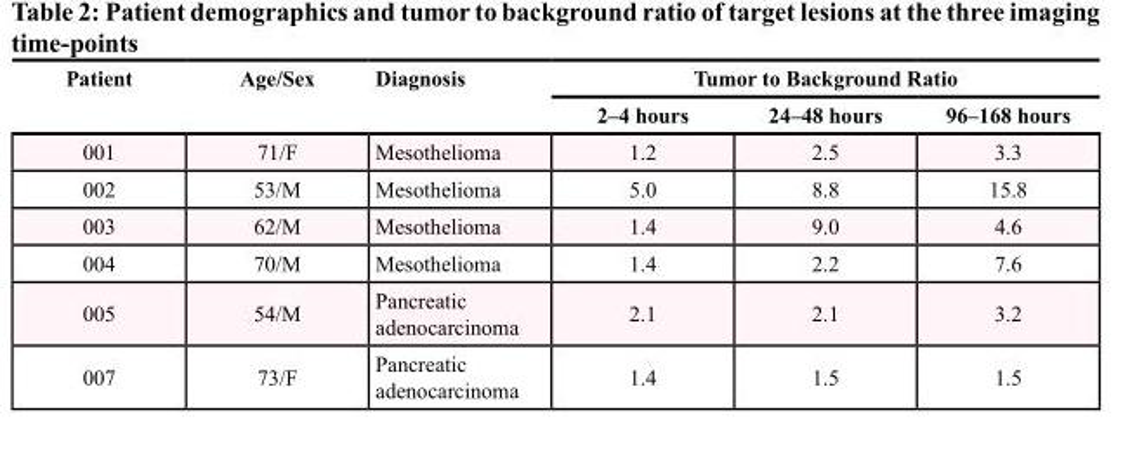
<table><thead><tr><td rowspan="2">Patient</td><td rowspan="2">Age/Sex</td><td rowspan="2">Diagnosis</td><td colspan="3">Tumor to Background Ratio</td></tr><tr><td>2–4 hours</td><td>24–48 hours</td><td>96–168 hours</td></tr></thead><tbody><tr><td>001</td><td>71/F</td><td>Mesothelioma</td><td>1.2</td><td>2.5</td><td>3.3</td></tr><tr><td>002</td><td>53/M</td><td>Mesothelioma</td><td>5.0</td><td>8.8</td><td>15.8</td></tr><tr><td>003</td><td>62/M</td><td>Mesothelioma</td><td>1.4</td><td>9.0</td><td>4.6</td></tr><tr><td>004</td><td>70/M</td><td>Mesothelioma</td><td>1.4</td><td>2.2</td><td>7.6</td></tr><tr><td>005</td><td>54/M</td><td>Pancreatic adenocarcinoma</td><td>2.1</td><td>2.1</td><td>3.2</td></tr><tr><td>007</td><td>73/F</td><td>Pancreatic adenocarcinoma</td><td>1.4</td><td>1.5</td><td>1.5</td></tr></tbody></table>